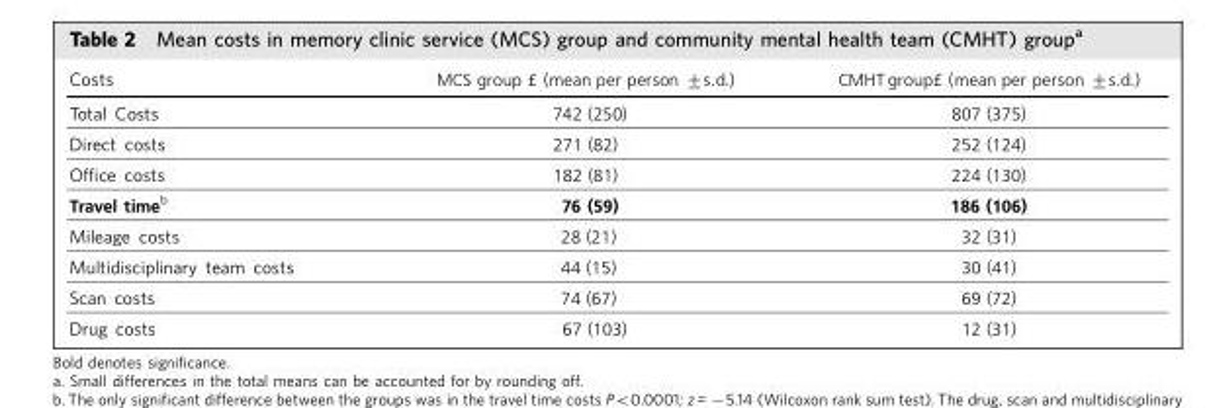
<table><thead><tr><td>Costs</td><td>MCS group » (mean per person +s.d.)</td><td>CMHT group» (mean per person +s.d.)</td></tr></thead><tbody><tr><td>Total Costs</td><td>742 (250)</td><td>807 (375)</td></tr><tr><td>Direct costs</td><td>271 (82)</td><td>252 (124)</td></tr><tr><td>Office costs</td><td>182 (81)</td><td>224 (130)</td></tr><tr><td>Travel time<sup>b</sup></td><td>76 (59)</td><td>186 (106)</td></tr><tr><td>Mileage costs</td><td>28 (21)</td><td>32 (31)</td></tr><tr><td>Multidisciplinary team costs</td><td>44 (15)</td><td>30 (41)</td></tr><tr><td>Scan costs</td><td>74 (67)</td><td>69 (72)</td></tr><tr><td>Drug costs</td><td>67 (103)</td><td>12 (31)</td></tr></tbody></table>